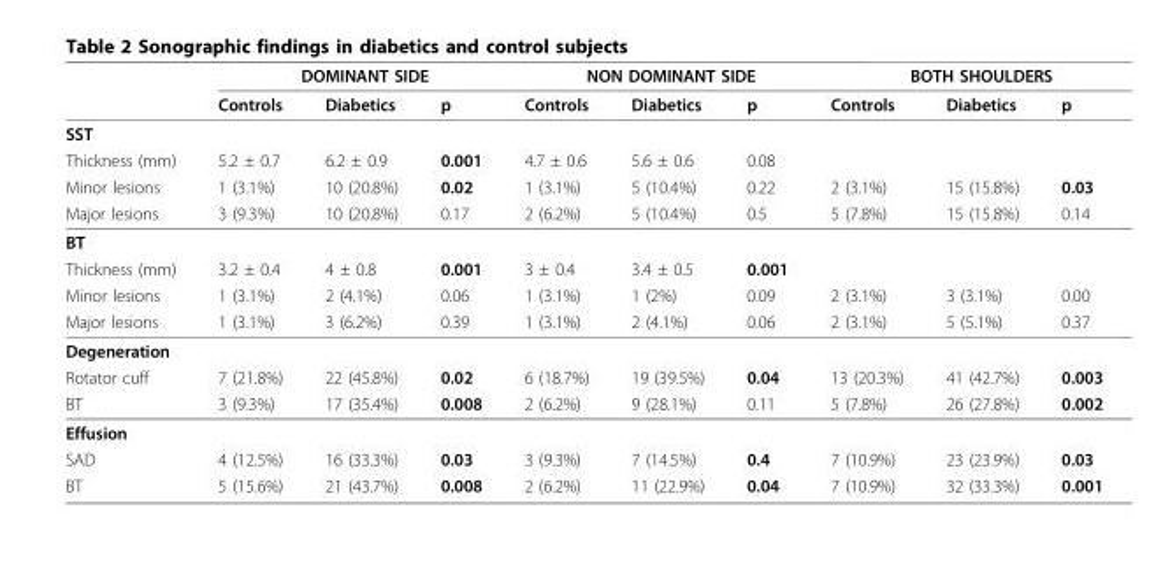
<table><thead><tr><td rowspan="2"></td><td colspan="3">DOMINANT SIDE</td><td colspan="3">NON DOMINANT SIDE</td><td colspan="3">BOTH SHOULDERS</td></tr><tr><td>Controls</td><td>Diabetics</td><td>p</td><td>Controls</td><td>Diabetics</td><td>p</td><td>Controls</td><td>Diabetics</td><td>p</td></tr></thead><tbody><tr><td colspan="10">SST</td></tr><tr><td>Thickness (mm)</td><td>5.2 ± 0.7</td><td>6.2 ± 0.9</td><td>0.001</td><td>4.7 ± 0.6</td><td>5.6 ± 0.6</td><td>0.08</td><td></td><td></td><td></td></tr><tr><td>Minor lesions</td><td>1 (3.1%)</td><td>10 (20.8%)</td><td>0.02</td><td>1 (3.1%)</td><td>5 (10.4%)</td><td>0.22</td><td>2 (3.1%)</td><td>15 (15.8%)</td><td>0.03</td></tr><tr><td>Major lesions</td><td>3 (9.3%)</td><td>10 (20.8%)</td><td>0.17</td><td>2 (6.2%)</td><td>5 (10.4%)</td><td>0.5</td><td>5 (7.8%)</td><td>15 (15.8%)</td><td>0.14</td></tr><tr><td colspan="10">BT</td></tr><tr><td>Thickness (mm)</td><td>3.2 ± 0.4</td><td>4 ± 0.8</td><td>0.001</td><td>3 ± 0.4</td><td>3.4 ± 0.5</td><td>0.001</td><td></td><td></td><td></td></tr><tr><td>Minor lesions</td><td>1 (3.1%)</td><td>2 (4.1%)</td><td>0.06</td><td>1 (3.1%)</td><td>1 (2%)</td><td>0.09</td><td>2 (3.1%)</td><td>3 (3.1%)</td><td>0.00</td></tr><tr><td>Major lesions</td><td>1 (3.1%)</td><td>3 (6.2%)</td><td>0.39</td><td>1 (3.1%)</td><td>2 (4.1%)</td><td>0.06</td><td>2 (3.1%)</td><td>5 (5.1%)</td><td>0.37</td></tr><tr><td colspan="10">Degeneration</td></tr><tr><td>Rotator cuff</td><td>7 (21.8%)</td><td>22 (45.8%)</td><td>0.02</td><td>6 (18.7%)</td><td>19 (39.5%)</td><td>0.04</td><td>13 (20.3%)</td><td>41 (42.7%)</td><td>0.003</td></tr><tr><td>BT</td><td>3 (9.3%)</td><td>17 (35.4%)</td><td>0.008</td><td>2 (6.2%)</td><td>9 (28.1%)</td><td>0.11</td><td>5 (7.8%)</td><td>26 (27.8%)</td><td>0.002</td></tr><tr><td colspan="10">Effusion</td></tr><tr><td>SAD</td><td>4 (12.5%)</td><td>16 (33.3%)</td><td>0.03</td><td>3 (9.3%)</td><td>7 (14.5%)</td><td>0.4</td><td>7 (10.9%)</td><td>23 (23.9%)</td><td>0.03</td></tr><tr><td>BT</td><td>5 (15.6%)</td><td>21 (43.7%)</td><td>0.008</td><td>2 (6.2%)</td><td>11 (22.9%)</td><td>0.04</td><td>7 (10.9%)</td><td>32 (33.3%)</td><td>0.001</td></tr></tbody></table>